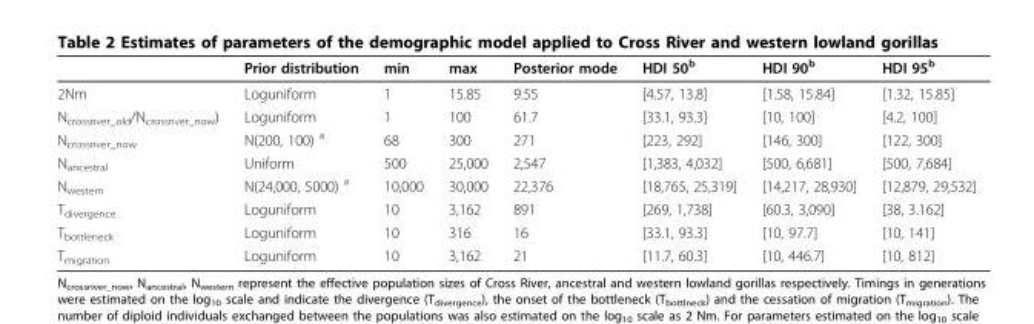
<table><thead><tr><td></td><td>Prior distribution</td><td>min</td><td>max</td><td>Posterior mode</td><td>HDI 50<sup>b</sup></td><td>HDI 90<sup>b</sup></td><td>HDI 95<sup>b</sup></td></tr></thead><tbody><tr><td>2Nm</td><td>Loguniform</td><td>1</td><td>15.85</td><td>9.55</td><td>[4.57, 13.8]</td><td>[1.58, 15.84]</td><td>[1.32, 15.85]</td></tr><tr><td>N<sub>crossriver_old</sub>/N<sub>crossriver_now</sub>)</td><td>Loguniform</td><td>1</td><td>100</td><td>61.7</td><td>[33.1, 93.3]</td><td>[10, 100]</td><td>[4.2, 100]</td></tr><tr><td>N<sub>crossriver_now</sub></td><td>N(200, 100) <sup>a</sup></td><td>68</td><td>300</td><td>271</td><td>[223, 292]</td><td>[146, 300]</td><td>[122, 300]</td></tr><tr><td>N<sub>ancestral</sub></td><td>Uniform</td><td>500</td><td>25,000</td><td>2,547</td><td>[1,383, 4,032]</td><td>[500, 6,681]</td><td>[500, 7,684]</td></tr><tr><td>N<sub>western</sub></td><td>N(24,000, 5000) <sup>a</sup></td><td>10,000</td><td>30,000</td><td>22,376</td><td>[18,765, 25,319]</td><td>[14,217, 28,930]</td><td>[12,879, 29,532]</td></tr><tr><td>T<sub>divergence</sub></td><td>Loguniform</td><td>10</td><td>3,162</td><td>891</td><td>[269, 1,738]</td><td>[60.3, 3,090]</td><td>[38, 3.162]</td></tr><tr><td>T<sub>bottleneck</sub></td><td>Loguniform</td><td>10</td><td>316</td><td>16</td><td>[33.1, 93.3]</td><td>[10, 97.7]</td><td>[10, 141]</td></tr><tr><td>T<sub>migration</sub></td><td>Loguniform</td><td>10</td><td>3,162</td><td>21</td><td>[11.7, 60.3]</td><td>[10, 446.7]</td><td>[10, 812]</td></tr></tbody></table>